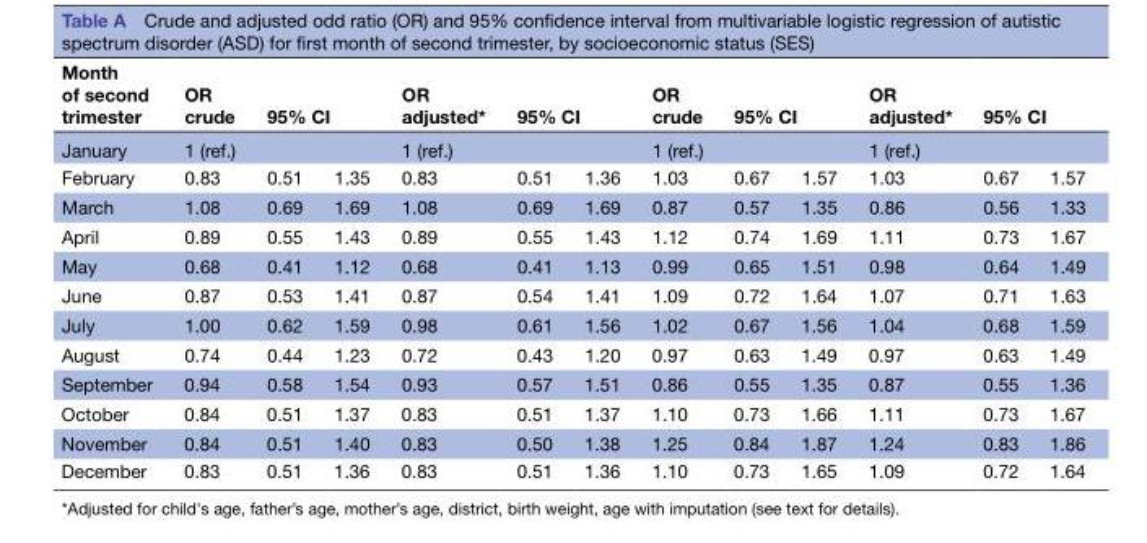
<table><thead><tr><td rowspan="2">Month of second trimester January</td><td rowspan="2">OR crude 1 (ref.)</td><td colspan="2">95% CI</td><td rowspan="2">OR adjusted* 1 (ref.)</td><td colspan="2">95% CI</td><td rowspan="2">OR crude 1 (ref.)</td><td colspan="2">95% CI</td><td rowspan="2">OR adjusted* 1 (ref.)</td><td colspan="2">95% CI</td></tr><tr><td></td><td></td><td></td><td></td><td></td><td></td><td></td><td></td></tr></thead><tbody><tr><td>February</td><td>0.83</td><td>0.51</td><td>1.35</td><td>0.83</td><td>0.51</td><td>1.36</td><td>1.03</td><td>0.67</td><td>1.57</td><td>1.03</td><td>0.67</td><td>1.57</td></tr><tr><td>March</td><td>1.08</td><td>0.69</td><td>1.69</td><td>1.08</td><td>0.69</td><td>1.69</td><td>0.87</td><td>0.57</td><td>1.35</td><td>0.86</td><td>0.56</td><td>1.33</td></tr><tr><td>April</td><td>0.89</td><td>0.55</td><td>1.43</td><td>0.89</td><td>0.55</td><td>1.43</td><td>1.12</td><td>0.74</td><td>1.69</td><td>1.11</td><td>0.73</td><td>1.67</td></tr><tr><td>May</td><td>0.68</td><td>0.41</td><td>1.12</td><td>0.68</td><td>0.41</td><td>1.13</td><td>0.99</td><td>0.65</td><td>1.51</td><td>0.98</td><td>0.64</td><td>1.49</td></tr><tr><td>June</td><td>0.87</td><td>0.53</td><td>1.41</td><td>0.87</td><td>0.54</td><td>1.41</td><td>1.09</td><td>0.72</td><td>1.64</td><td>1.07</td><td>0.71</td><td>1.63</td></tr><tr><td>July</td><td>1.00</td><td>0.62</td><td>1.59</td><td>0.98</td><td>0.61</td><td>1.56</td><td>1.02</td><td>0.67</td><td>1.56</td><td>1.04</td><td>0.68</td><td>1.59</td></tr><tr><td>August</td><td>0.74</td><td>0.44</td><td>1.23</td><td>0.72</td><td>0.43</td><td>1.20</td><td>0.97</td><td>0.63</td><td>1.49</td><td>0.97</td><td>0.63</td><td>1.49</td></tr><tr><td>September</td><td>0.94</td><td>0.58</td><td>1.54</td><td>0.93</td><td>0.57</td><td>1.51</td><td>0.86</td><td>0.55</td><td>1.35</td><td>0.87</td><td>0.55</td><td>1.36</td></tr><tr><td>October</td><td>0.84</td><td>0.51</td><td>1.37</td><td>0.83</td><td>0.51</td><td>1.37</td><td>1.10</td><td>0.73</td><td>1.66</td><td>1.11</td><td>0.73</td><td>1.67</td></tr><tr><td>November</td><td>0.84</td><td>0.51</td><td>1.40</td><td>0.83</td><td>0.50</td><td>1.38</td><td>1.25</td><td>0.84</td><td>1.87</td><td>1.24</td><td>0.83</td><td>1.86</td></tr><tr><td>December</td><td>0.83</td><td>0.51</td><td>1.36</td><td>0.83</td><td>0.51</td><td>1.36</td><td>1.10</td><td>0.73</td><td>1.65</td><td>1.09</td><td>0.72</td><td>1.64</td></tr></tbody></table>